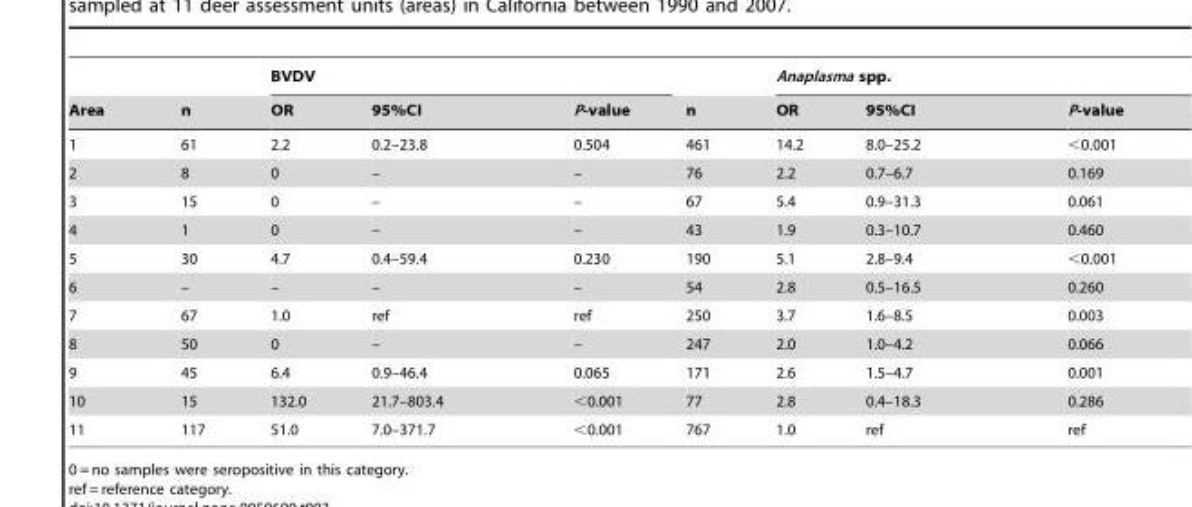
<table><thead><tr><td rowspan="2">Area</td><td rowspan="2">n</td><td colspan="3">BVDV</td><td rowspan="2">n</td><td colspan="3">Anaplasma spp.</td></tr><tr><td>OR</td><td>95%CI</td><td>P-value</td><td>OR</td><td>95%CI</td><td>P-value</td></tr></thead><tbody><tr><td>1</td><td>61</td><td>2.2</td><td>0.2–23.8</td><td>0.504</td><td>461</td><td>14.2</td><td>8.0–25.2</td><td>&lt;0.001</td></tr><tr><td>2</td><td>8</td><td>0</td><td>–</td><td>–</td><td>76</td><td>2.2</td><td>0.7–6.7</td><td>0.169</td></tr><tr><td>3</td><td>15</td><td>0</td><td>–</td><td>–</td><td>67</td><td>5.4</td><td>0.9–31.3</td><td>0.061</td></tr><tr><td>4</td><td>1</td><td>0</td><td>–</td><td>–</td><td>43</td><td>1.9</td><td>0.3–10.7</td><td>0.460</td></tr><tr><td>5</td><td>30</td><td>4.7</td><td>0.4–59.4</td><td>0.230</td><td>190</td><td>5.1</td><td>2.8–9.4</td><td>&lt;0.001</td></tr><tr><td>6</td><td>–</td><td>–</td><td>–</td><td>–</td><td>54</td><td>2.8</td><td>0.5–16.5</td><td>0.260</td></tr><tr><td>7</td><td>67</td><td>1.0</td><td>ref</td><td>ref</td><td>250</td><td>3.7</td><td>1.6–8.5</td><td>0.003</td></tr><tr><td>8</td><td>50</td><td>0</td><td>–</td><td>–</td><td>247</td><td>2.0</td><td>1.0–4.2</td><td>0.066</td></tr><tr><td>9</td><td>45</td><td>6.4</td><td>0.9–46.4</td><td>0.065</td><td>171</td><td>2.6</td><td>1.5–4.7</td><td>0.001</td></tr><tr><td>10</td><td>15</td><td>132.0</td><td>21.7–803.4</td><td>&lt;0.001</td><td>77</td><td>2.8</td><td>0.4–18.3</td><td>0.286</td></tr><tr><td>11</td><td>117</td><td>51.0</td><td>7.0–371.7</td><td>&lt;0.001</td><td>767</td><td>1.0</td><td>ref</td><td>ref</td></tr></tbody></table>